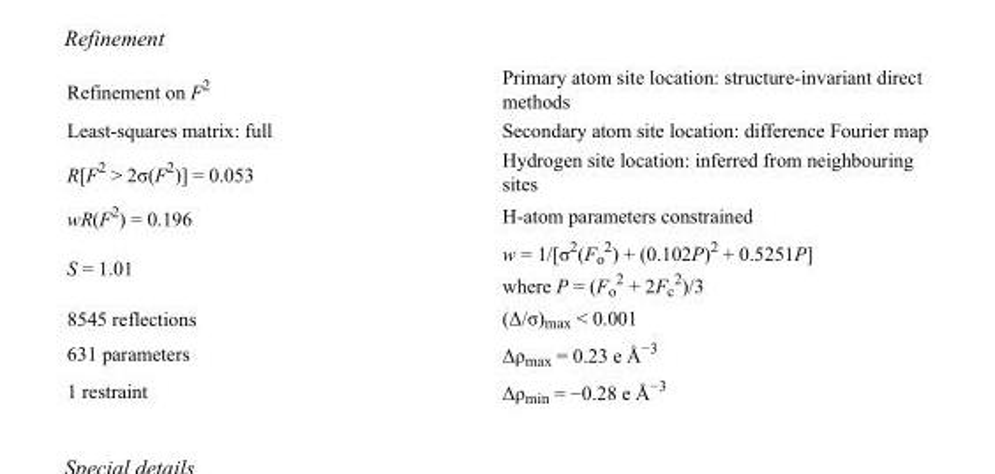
<table><tbody><tr><td>Refinement on F<sup>2</sup></td><td>Primary atom site location: structure-invariant direct methods</td></tr><tr><td>Least-squares matrix: full</td><td>Secondary atom site location: difference Fourier map</td></tr><tr><td>R[F<sup>2</sup> &gt; 2σ(F<sup>2</sup>)] = 0.053</td><td>Hydrogen site location: inferred from neighbouring sites</td></tr><tr><td>wR(F<sup>2</sup>) = 0.196</td><td>H-atom parameters constrained</td></tr><tr><td>S = 1.01</td><td>w = 1/[σ<sup>2</sup>(F<sub>o</sub> <sup>2</sup>) + (0.102P)<sup>2</sup> + 0.5251P] where P = (F<sub>o</sub> <sup>2</sup> + 2F<sub>c</sub> <sup>2</sup>)/3</td></tr><tr><td>8545 reflections</td><td>(Δ/σ)<sub>max</sub> &lt; 0.001</td></tr><tr><td>631 parameters</td><td>Δρ<sub>max</sub> = 0.23 e Å<sup>−3</sup></td></tr><tr><td>1 restraint</td><td>Δρ<sub>min</sub> = −0.28 e Å<sup>−3</sup></td></tr></tbody></table>